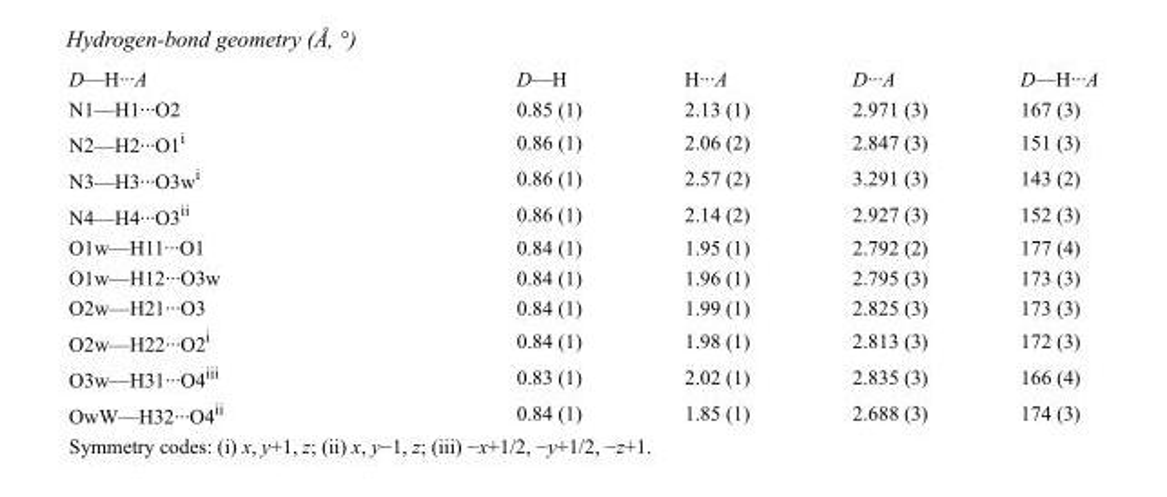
<table><tbody><tr><td>D—H···A</td><td>D—H</td><td>H···A</td><td>D···A</td><td>D—H···A</td></tr><tr><td>N1—H1···O2</td><td>0.85 (1)</td><td>2.13 (1)</td><td>2.971 (3)</td><td>167 (3)</td></tr><tr><td>N2—H2···O1<sup>i</sup></td><td>0.86 (1)</td><td>2.06 (2)</td><td>2.847 (3)</td><td>151 (3)</td></tr><tr><td>N3—H3···O3w<sup>i</sup></td><td>0.86 (1)</td><td>2.57 (2)</td><td>3.291 (3)</td><td>143 (2)</td></tr><tr><td>N4—H4···O3<sup>ii</sup></td><td>0.86 (1)</td><td>2.14 (2)</td><td>2.927 (3)</td><td>152 (3)</td></tr><tr><td>O1w—H11···O1</td><td>0.84 (1)</td><td>1.95 (1)</td><td>2.792 (2)</td><td>177 (4)</td></tr><tr><td>O1w—H12···O3w</td><td>0.84 (1)</td><td>1.96 (1)</td><td>2.795 (3)</td><td>173 (3)</td></tr><tr><td>O2w—H21···O3</td><td>0.84 (1)</td><td>1.99 (1)</td><td>2.825 (3)</td><td>173 (3)</td></tr><tr><td>O2w—H22···O2<sup>i</sup></td><td>0.84 (1)</td><td>1.98 (1)</td><td>2.813 (3)</td><td>172 (3)</td></tr><tr><td>O3w—H31···O4<sup>iii</sup></td><td>0.83 (1)</td><td>2.02 (1)</td><td>2.835 (3)</td><td>166 (4)</td></tr><tr><td>OwW—H32···O4<sup>ii</sup></td><td>0.84 (1)</td><td>1.85 (1)</td><td>2.688 (3)</td><td>174 (3)</td></tr></tbody></table>